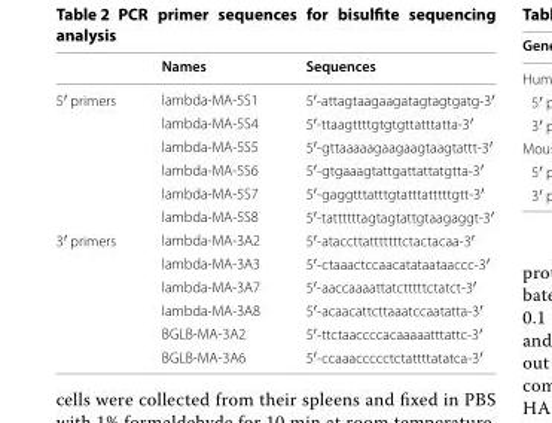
<table><thead><tr><td></td><td>Names</td><td>Sequences</td></tr></thead><tbody><tr><td rowspan="6">5′ primers</td><td>lambda-MA-5S1</td><td>5′-attagtaagaagatagtagtgatg-3′</td></tr><tr><td>lambda-MA-5S4</td><td>5′-ttaagttttgtgtgttatttatta-3′</td></tr><tr><td>lambda-MA-5S5</td><td>5′-gttaaaaagaagaagtaagtattt-3′</td></tr><tr><td>lambda-MA-5S6</td><td>5′-gtgaaagtattgattattatgtta-3′</td></tr><tr><td>lambda-MA-5S7</td><td>5′-gaggtttatttgtatttatttttgtt-3′</td></tr><tr><td>lambda-MA-5S8</td><td>5′-tattttttagtagtattgtaagaggt-3′</td></tr><tr><td rowspan="6">3′ primers</td><td>lambda-MA-3A2</td><td>5′-ataccttatttttttctactacaa-3′</td></tr><tr><td>lambda-MA-3A3</td><td>5′-ctaaactccaacatataataaccc-3′</td></tr><tr><td>lambda-MA-3A7</td><td>5′-aaccaaaattatctttttctatct-3′</td></tr><tr><td>lambda-MA-3A8</td><td>5′-acaacattcttaaatccaatatta-3′</td></tr><tr><td>BGLB-MA-3A2</td><td>5′-ttctaaccccacaaaaatttattc-3′</td></tr><tr><td>BGLB-MA-3A6</td><td>5′-ccaaaccccctctattttatatca-3′</td></tr></tbody></table>